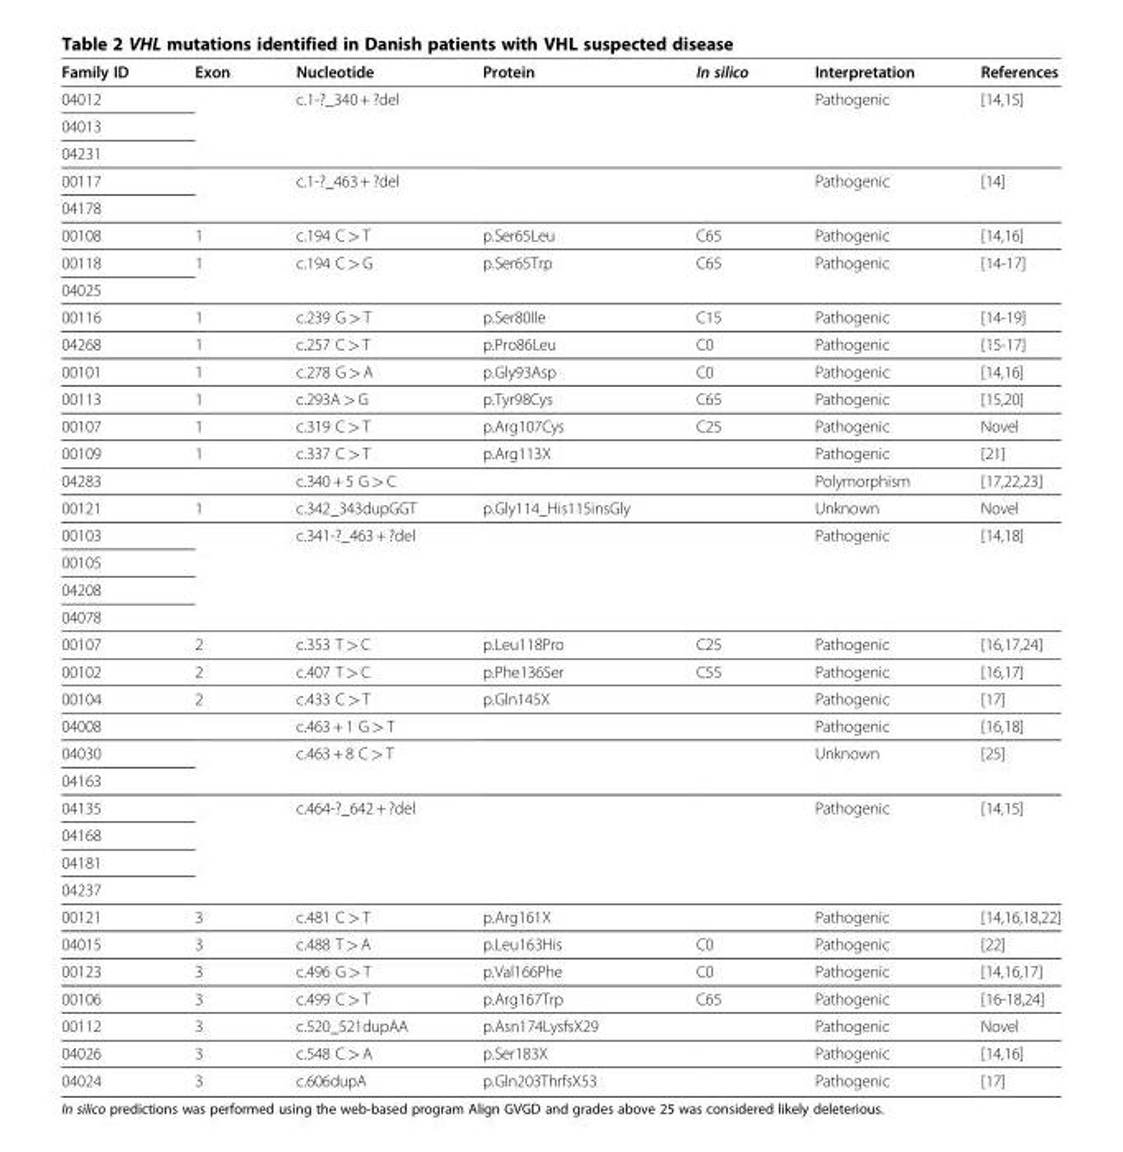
<table><thead><tr><td>Family ID</td><td>Exon</td><td>Nucleotide</td><td>Protein</td><td>In silico</td><td>Interpretation</td><td>References</td></tr></thead><tbody><tr><td>04012</td><td></td><td>c.1-?_340 + ?del</td><td></td><td></td><td>Pathogenic</td><td>[14,15]</td></tr><tr><td colspan="7">04013</td></tr><tr><td colspan="7">04231</td></tr><tr><td>00117</td><td></td><td>c.1-?_463 + ?del</td><td></td><td></td><td>Pathogenic</td><td>[14]</td></tr><tr><td colspan="7">04178</td></tr><tr><td>00108</td><td>1</td><td>c.194 C &gt; T</td><td>p.Ser65Leu</td><td>C65</td><td>Pathogenic</td><td>[14,16]</td></tr><tr><td>00118</td><td>1</td><td>c.194 C &gt; G</td><td>p.Ser65Trp</td><td>C65</td><td>Pathogenic</td><td>[14-17]</td></tr><tr><td colspan="7">04025</td></tr><tr><td>00116</td><td>1</td><td>c.239 G &gt; T</td><td>p.Ser80Ile</td><td>C15</td><td>Pathogenic</td><td>[14-19]</td></tr><tr><td>04268</td><td>1</td><td>c.257 C &gt; T</td><td>p.Pro86Leu</td><td>C0</td><td>Pathogenic</td><td>[15-17]</td></tr><tr><td>00101</td><td>1</td><td>c.278 G &gt; A</td><td>p.Gly93Asp</td><td>C0</td><td>Pathogenic</td><td>[14,16]</td></tr><tr><td>00113</td><td>1</td><td>c.293A &gt; G</td><td>p.Tyr98Cys</td><td>C65</td><td>Pathogenic</td><td>[15,20]</td></tr><tr><td>00107</td><td>1</td><td>c.319 C &gt; T</td><td>p.Arg107Cys</td><td>C25</td><td>Pathogenic</td><td>Novel</td></tr><tr><td>00109</td><td>1</td><td>c.337 C &gt; T</td><td>p.Arg113X</td><td></td><td>Pathogenic</td><td>[21]</td></tr><tr><td>04283</td><td></td><td>c.340 + 5 G &gt; C</td><td></td><td></td><td>Polymorphism</td><td>[17,22,23]</td></tr><tr><td>00121</td><td>1</td><td>c.342_343dupGGT</td><td>p.Gly114_His115insGly</td><td></td><td>Unknown</td><td>Novel</td></tr><tr><td>00103</td><td></td><td>c.341-?_463 + ?del</td><td></td><td></td><td>Pathogenic</td><td>[14,18]</td></tr><tr><td colspan="7">00105</td></tr><tr><td colspan="7">04208</td></tr><tr><td colspan="7">04078</td></tr><tr><td>00107</td><td>2</td><td>c.353 T &gt; C</td><td>p.Leu118Pro</td><td>C25</td><td>Pathogenic</td><td>[16,17,24]</td></tr><tr><td>00102</td><td>2</td><td>c.407 T &gt; C</td><td>p.Phe136Ser</td><td>C55</td><td>Pathogenic</td><td>[16,17]</td></tr><tr><td>00104</td><td>2</td><td>c.433 C &gt; T</td><td>p.Gln145X</td><td></td><td>Pathogenic</td><td>[17]</td></tr><tr><td>04008</td><td></td><td>c.463 + 1 G &gt; T</td><td></td><td></td><td>Pathogenic</td><td>[16,18]</td></tr><tr><td>04030</td><td></td><td>c.463 + 8 C &gt; T</td><td></td><td></td><td>Unknown</td><td>[25]</td></tr><tr><td colspan="7">04163</td></tr><tr><td>04135</td><td></td><td>c.464-?_642 + ?del</td><td></td><td></td><td>Pathogenic</td><td>[14,15]</td></tr><tr><td colspan="7">04168</td></tr><tr><td colspan="7">04181</td></tr><tr><td colspan="7">04237</td></tr><tr><td>00121</td><td>3</td><td>c.481 C &gt; T</td><td>p.Arg161X</td><td></td><td>Pathogenic</td><td>[14,16,18,22]</td></tr><tr><td>04015</td><td>3</td><td>c.488 T &gt; A</td><td>p.Leu163His</td><td>C0</td><td>Pathogenic</td><td>[22]</td></tr><tr><td>00123</td><td>3</td><td>c.496 G &gt; T</td><td>p.Val166Phe</td><td>C0</td><td>Pathogenic</td><td>[14,16,17]</td></tr><tr><td>00106</td><td>3</td><td>c.499 C &gt; T</td><td>p.Arg167Trp</td><td>C65</td><td>Pathogenic</td><td>[16-18,24]</td></tr><tr><td>00112</td><td>3</td><td>c.520_521dupAA</td><td>p.Asn174LysfsX29</td><td></td><td>Pathogenic</td><td>Novel</td></tr><tr><td>04026</td><td>3</td><td>c.548 C &gt; A</td><td>p.Ser183X</td><td></td><td>Pathogenic</td><td>[14,16]</td></tr><tr><td>04024</td><td>3</td><td>c.606dupA</td><td>p.Gln203ThrfsX53</td><td></td><td>Pathogenic</td><td>[17]</td></tr></tbody></table>